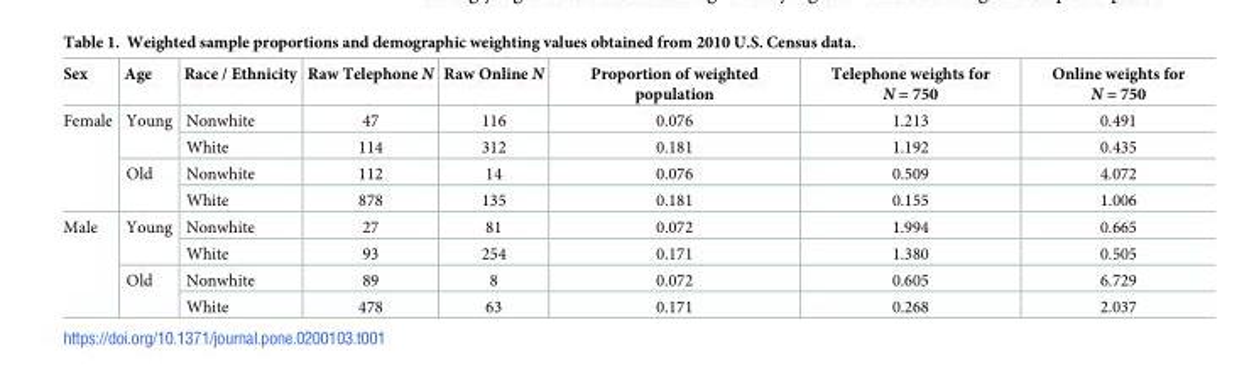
<table><thead><tr><td>Sex</td><td>Age</td><td>Race / Ethnicity</td><td>Raw Telephone N</td><td>Raw Online N</td><td>Proportion of weighted population</td><td>Telephone weights for N = 750</td><td>Online weights for N = 750</td></tr></thead><tbody><tr><td rowspan="4">Female</td><td rowspan="2">Young</td><td>Nonwhite</td><td>47</td><td>116</td><td>0.076</td><td>1.213</td><td>0.491</td></tr><tr><td>White</td><td>114</td><td>312</td><td>0.181</td><td>1.192</td><td>0.435</td></tr><tr><td rowspan="2">Old</td><td>Nonwhite</td><td>112</td><td>14</td><td>0.076</td><td>0.509</td><td>4.072</td></tr><tr><td>White</td><td>878</td><td>135</td><td>0.181</td><td>0.155</td><td>1.006</td></tr><tr><td rowspan="4">Male</td><td rowspan="2">Young</td><td>Nonwhite</td><td>27</td><td>81</td><td>0.072</td><td>1.994</td><td>0.665</td></tr><tr><td>White</td><td>93</td><td>254</td><td>0.171</td><td>1.380</td><td>0.505</td></tr><tr><td rowspan="2">Old</td><td>Nonwhite</td><td>89</td><td>8</td><td>0.072</td><td>0.605</td><td>6.729</td></tr><tr><td>White</td><td>478</td><td>63</td><td>0.171</td><td>0.268</td><td>2.037</td></tr></tbody></table>